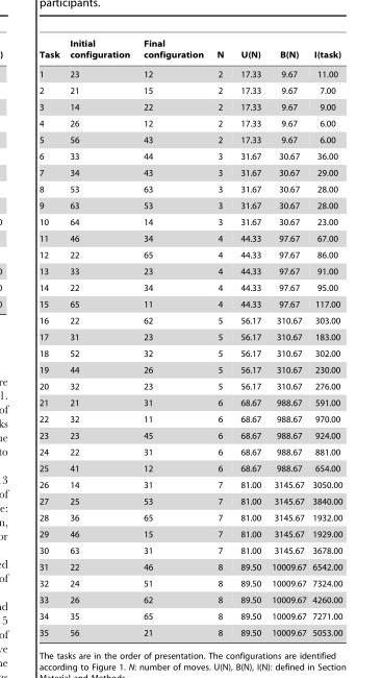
<table><thead><tr><td>Task</td><td>Initial configuration</td><td>Final configuration</td><td>N</td><td>U(N)</td><td>B(N)</td><td>I(task)</td></tr></thead><tbody><tr><td>1</td><td>23</td><td>12</td><td>2</td><td>17.33</td><td>9.67</td><td>11.00</td></tr><tr><td>2</td><td>21</td><td>15</td><td>2</td><td>17.33</td><td>9.67</td><td>7.00</td></tr><tr><td>3</td><td>14</td><td>22</td><td>2</td><td>17.33</td><td>9.67</td><td>9.00</td></tr><tr><td>4</td><td>26</td><td>12</td><td>2</td><td>17.33</td><td>9.67</td><td>6.00</td></tr><tr><td>5</td><td>56</td><td>43</td><td>2</td><td>17.33</td><td>9.67</td><td>6.00</td></tr><tr><td>6</td><td>33</td><td>44</td><td>3</td><td>31.67</td><td>30.67</td><td>36.00</td></tr><tr><td>7</td><td>34</td><td>43</td><td>3</td><td>31.67</td><td>30.67</td><td>29.00</td></tr><tr><td>8</td><td>53</td><td>63</td><td>3</td><td>31.67</td><td>30.67</td><td>28.00</td></tr><tr><td>9</td><td>63</td><td>53</td><td>3</td><td>31.67</td><td>30.67</td><td>28.00</td></tr><tr><td>10</td><td>64</td><td>14</td><td>3</td><td>31.67</td><td>30.67</td><td>23.00</td></tr><tr><td>11</td><td>46</td><td>34</td><td>4</td><td>44.33</td><td>97.67</td><td>67.00</td></tr><tr><td>12</td><td>22</td><td>65</td><td>4</td><td>44.33</td><td>97.67</td><td>86.00</td></tr><tr><td>13</td><td>33</td><td>23</td><td>4</td><td>44.33</td><td>97.67</td><td>91.00</td></tr><tr><td>14</td><td>22</td><td>34</td><td>4</td><td>44.33</td><td>97.67</td><td>95.00</td></tr><tr><td>15</td><td>65</td><td>11</td><td>4</td><td>44.33</td><td>97.67</td><td>117.00</td></tr><tr><td>16</td><td>22</td><td>62</td><td>5</td><td>56.17</td><td>310.67</td><td>303.00</td></tr><tr><td>17</td><td>31</td><td>23</td><td>5</td><td>56.17</td><td>310.67</td><td>183.00</td></tr><tr><td>18</td><td>52</td><td>32</td><td>5</td><td>56.17</td><td>310.67</td><td>302.00</td></tr><tr><td>19</td><td>44</td><td>26</td><td>5</td><td>56.17</td><td>310.67</td><td>230.00</td></tr><tr><td>20</td><td>32</td><td>23</td><td>5</td><td>56.17</td><td>310.67</td><td>276.00</td></tr><tr><td>21</td><td>21</td><td>31</td><td>6</td><td>68.67</td><td>988.67</td><td>591.00</td></tr><tr><td>22</td><td>32</td><td>11</td><td>6</td><td>68.67</td><td>988.67</td><td>970.00</td></tr><tr><td>23</td><td>23</td><td>45</td><td>6</td><td>68.67</td><td>988.67</td><td>924.00</td></tr><tr><td>24</td><td>22</td><td>31</td><td>6</td><td>68.67</td><td>988.67</td><td>881.00</td></tr><tr><td>25</td><td>41</td><td>12</td><td>6</td><td>68.67</td><td>988.67</td><td>654.00</td></tr><tr><td>26</td><td>14</td><td>31</td><td>7</td><td>81.00</td><td>3145.67</td><td>3050.00</td></tr><tr><td>27</td><td>25</td><td>53</td><td>7</td><td>81.00</td><td>3145.67</td><td>3840.00</td></tr><tr><td>28</td><td>36</td><td>65</td><td>7</td><td>81.00</td><td>3145.67</td><td>1932.00</td></tr><tr><td>29</td><td>46</td><td>15</td><td>7</td><td>81.00</td><td>3145.67</td><td>1929.00</td></tr><tr><td>30</td><td>63</td><td>31</td><td>7</td><td>81.00</td><td>3145.67</td><td>3678.00</td></tr><tr><td>31</td><td>22</td><td>46</td><td>8</td><td>89.50</td><td>10009.67</td><td>6542.00</td></tr><tr><td>32</td><td>24</td><td>51</td><td>8</td><td>89.50</td><td>10009.67</td><td>7324.00</td></tr><tr><td>33</td><td>26</td><td>62</td><td>8</td><td>89.50</td><td>10009.67</td><td>4260.00</td></tr><tr><td>34</td><td>35</td><td>65</td><td>8</td><td>89.50</td><td>10009.67</td><td>7271.00</td></tr><tr><td>35</td><td>56</td><td>21</td><td>8</td><td>89.50</td><td>10009.67</td><td>5053.00</td></tr></tbody></table>